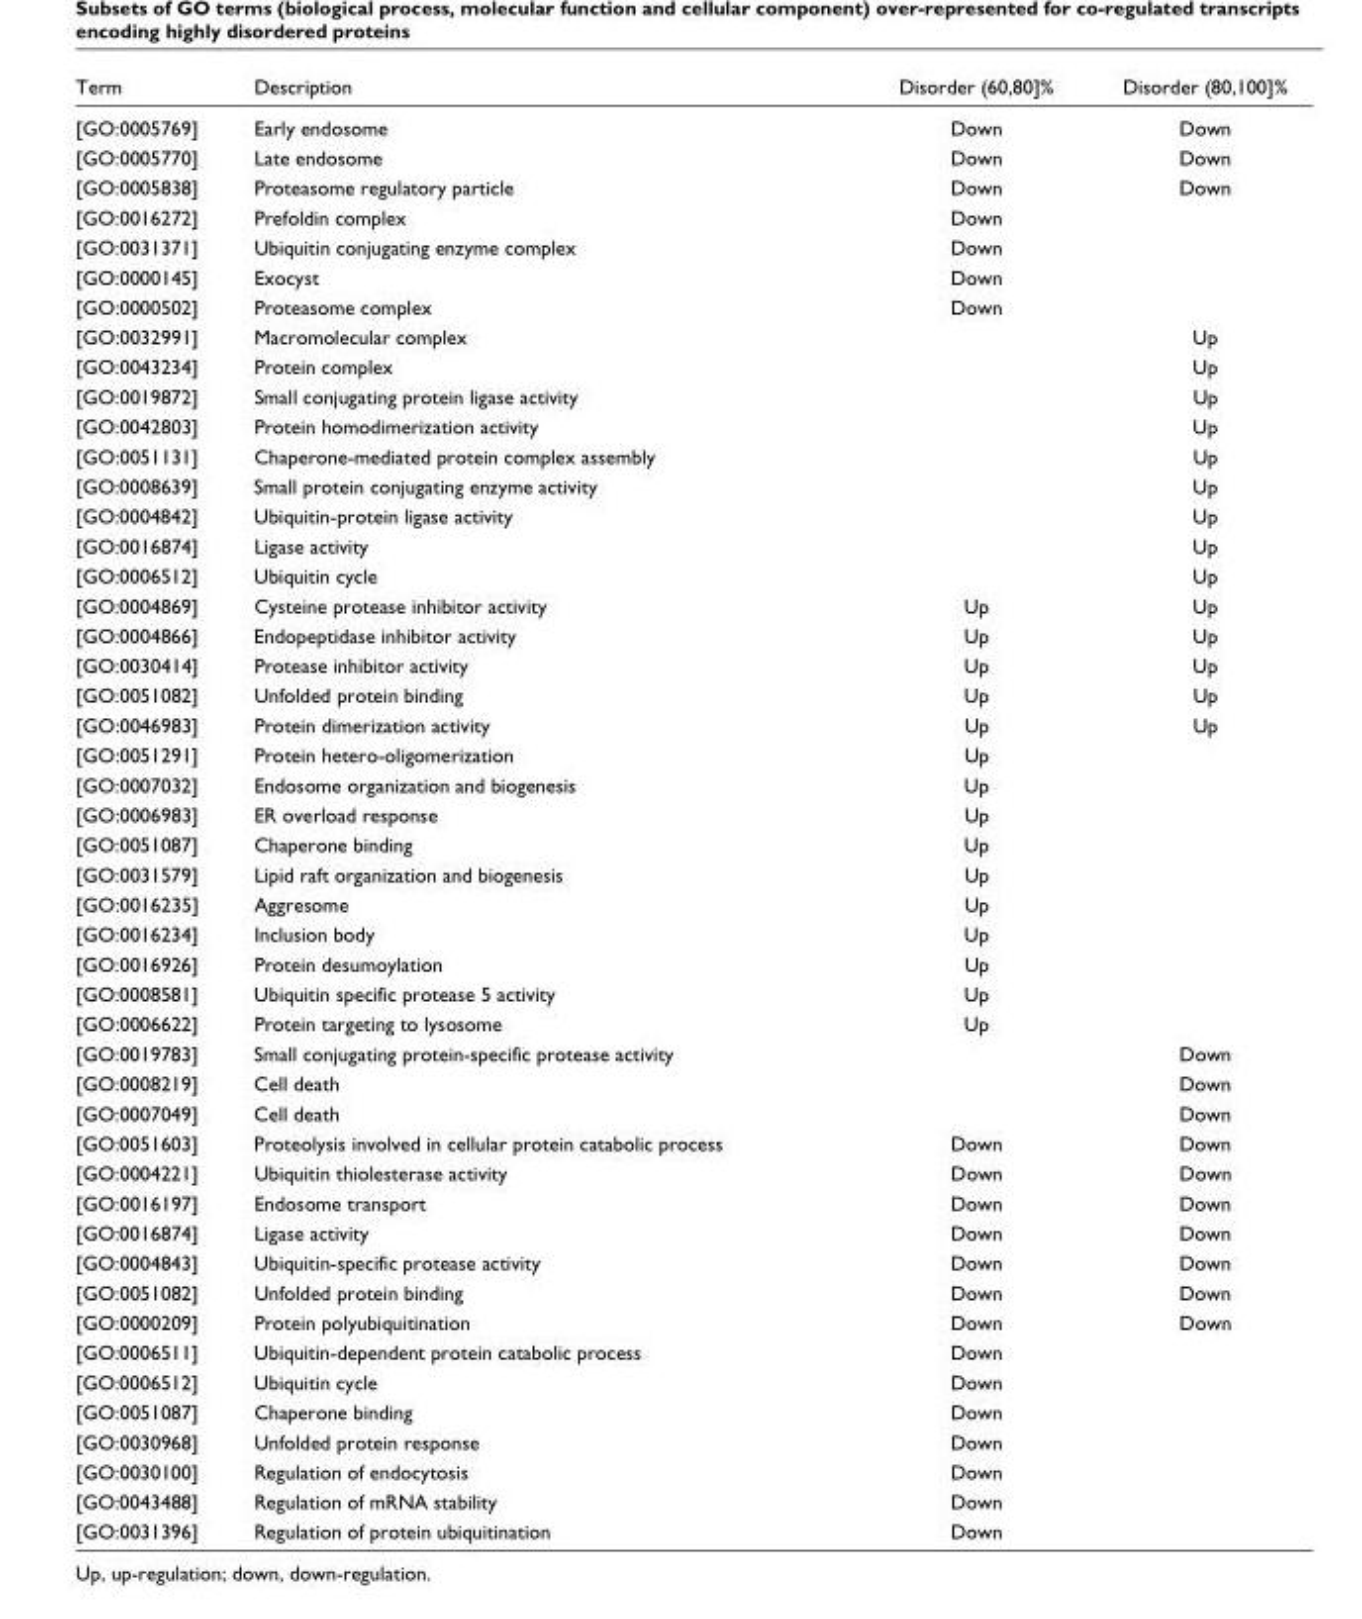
<table><thead><tr><td>Term</td><td>Description</td><td>Disorder (60,80]%</td><td>Disorder (80,100]%</td></tr></thead><tbody><tr><td>[GO:0005769]</td><td>Early endosome</td><td>Down</td><td>Down</td></tr><tr><td>[GO:0005770]</td><td>Late endosome</td><td>Down</td><td>Down</td></tr><tr><td>[GO:0005838]</td><td>Proteasome regulatory particle</td><td>Down</td><td>Down</td></tr><tr><td>[GO:0016272]</td><td>Prefoldin complex</td><td>Down</td><td></td></tr><tr><td>[GO:0031371]</td><td>Ubiquitin conjugating enzyme complex</td><td>Down</td><td></td></tr><tr><td>[GO:0000145]</td><td>Exocyst</td><td>Down</td><td></td></tr><tr><td>[GO:0000502]</td><td>Proteasome complex</td><td>Down</td><td></td></tr><tr><td>[GO:0032991]</td><td>Macromolecular complex</td><td></td><td>Up</td></tr><tr><td>[GO:0043234]</td><td>Protein complex</td><td></td><td>Up</td></tr><tr><td>[GO:0019872]</td><td>Small conjugating protein ligase activity</td><td></td><td>Up</td></tr><tr><td>[GO:0042803]</td><td>Protein homodimerization activity</td><td></td><td>Up</td></tr><tr><td>[GO:0051131]</td><td>Chaperone-mediated protein complex assembly</td><td></td><td>Up</td></tr><tr><td>[GO:0008639]</td><td>Small protein conjugating enzyme activity</td><td></td><td>Up</td></tr><tr><td>[GO:0004842]</td><td>Ubiquitin-protein ligase activity</td><td></td><td>Up</td></tr><tr><td>[GO:0016874]</td><td>Ligase activity</td><td></td><td>Up</td></tr><tr><td>[GO:0006512]</td><td>Ubiquitin cycle</td><td></td><td>Up</td></tr><tr><td>[GO:0004869]</td><td>Cysteine protease inhibitor activity</td><td>Up</td><td>Up</td></tr><tr><td>[GO:0004866]</td><td>Endopeptidase inhibitor activity</td><td>Up</td><td>Up</td></tr><tr><td>[GO:0030414]</td><td>Protease inhibitor activity</td><td>Up</td><td>Up</td></tr><tr><td>[GO:0051082]</td><td>Unfolded protein binding</td><td>Up</td><td>Up</td></tr><tr><td>[GO:0046983]</td><td>Protein dimerization activity</td><td>Up</td><td>Up</td></tr><tr><td>[GO:0051291]</td><td>Protein hetero-oligomerization</td><td>Up</td><td></td></tr><tr><td>[GO:0007032]</td><td>Endosome organization and biogenesis</td><td>Up</td><td></td></tr><tr><td>[GO:0006983]</td><td>ER overload response</td><td>Up</td><td></td></tr><tr><td>[GO:0051087]</td><td>Chaperone binding</td><td>Up</td><td></td></tr><tr><td>[GO:0031579]</td><td>Lipid raft organization and biogenesis</td><td>Up</td><td></td></tr><tr><td>[GO:0016235]</td><td>Aggresome</td><td>Up</td><td></td></tr><tr><td>[GO:0016234]</td><td>Inclusion body</td><td>Up</td><td></td></tr><tr><td>[GO:0016926]</td><td>Protein desumoylation</td><td>Up</td><td></td></tr><tr><td>[GO:0008581]</td><td>Ubiquitin specific protease 5 activity</td><td>Up</td><td></td></tr><tr><td>[GO:0006622]</td><td>Protein targeting to lysosome</td><td>Up</td><td></td></tr><tr><td>[GO:0019783]</td><td>Small conjugating protein-specific protease activity</td><td></td><td>Down</td></tr><tr><td>[GO:0008219]</td><td>Cell death</td><td></td><td>Down</td></tr><tr><td>[GO:0007049]</td><td>Cell death</td><td></td><td>Down</td></tr><tr><td>[GO:0051603]</td><td>Proteolysis involved in cellular protein catabolic process</td><td>Down</td><td>Down</td></tr><tr><td>[GO:0004221]</td><td>Ubiquitin thiolesterase activity</td><td>Down</td><td>Down</td></tr><tr><td>[GO:0016197]</td><td>Endosome transport</td><td>Down</td><td>Down</td></tr><tr><td>[GO:0016874]</td><td>Ligase activity</td><td>Down</td><td>Down</td></tr><tr><td>[GO:0004843]</td><td>Ubiquitin-specific protease activity</td><td>Down</td><td>Down</td></tr><tr><td>[GO:0051082]</td><td>Unfolded protein binding</td><td>Down</td><td>Down</td></tr><tr><td>[GO:0000209]</td><td>Protein polyubiquitination</td><td>Down</td><td>Down</td></tr><tr><td>[GO:0006511]</td><td>Ubiquitin-dependent protein catabolic process</td><td>Down</td><td></td></tr><tr><td>[GO:0006512]</td><td>Ubiquitin cycle</td><td>Down</td><td></td></tr><tr><td>[GO:0051087]</td><td>Chaperone binding</td><td>Down</td><td></td></tr><tr><td>[GO:0030968]</td><td>Unfolded protein response</td><td>Down</td><td></td></tr><tr><td>[GO:0030100]</td><td>Regulation of endocytosis</td><td>Down</td><td></td></tr><tr><td>[GO:0043488]</td><td>Regulation of mRNA stability</td><td>Down</td><td></td></tr><tr><td>[GO:0031396]</td><td>Regulation of protein ubiquitination</td><td>Down</td><td></td></tr></tbody></table>